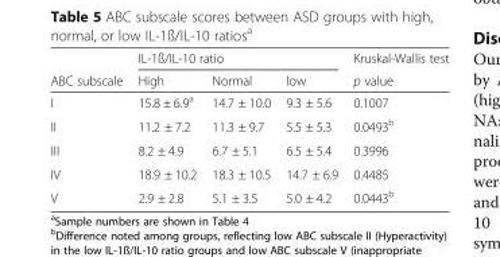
<table><thead><tr><td rowspan="2">ABC subscale</td><td colspan="3">IL-1ß/IL-10 ratio</td><td rowspan="2">Kruskal-Wallis test p value</td></tr><tr><td>High</td><td>Normal</td><td>low</td></tr></thead><tbody><tr><td>I</td><td>15.8 ± 6.9<sup>a</sup></td><td>14.7 ± 10.0</td><td>9.3 ± 5.6</td><td>0.1007</td></tr><tr><td>II</td><td>11.2 ± 7.2</td><td>11.3 ± 9.7</td><td>5.5 ± 5.3</td><td>0.0493<sup>b</sup></td></tr><tr><td>III</td><td>8.2 ± 4.9</td><td>6.7 ± 5.1</td><td>6.5 ± 5.4</td><td>0.3996</td></tr><tr><td>IV</td><td>18.9 ± 10.2</td><td>18.3 ± 10.5</td><td>14.7 ± 6.9</td><td>0.4485</td></tr><tr><td>V</td><td>2.9 ± 2.8</td><td>5.1 ± 3.5</td><td>5.0 ± 4.2</td><td>0.0443<sup>b</sup></td></tr></tbody></table>